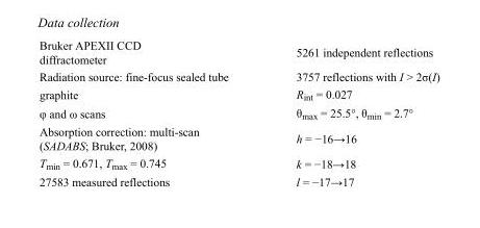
<table><tbody><tr><td>Bruker APEXII CCD diffractometer</td><td>5261 independent reflections</td></tr><tr><td>Radiation source: fine-focus sealed tube</td><td>3757 reflections with I &gt; 2σ(I)</td></tr><tr><td>graphite</td><td>R<sub>int</sub> = 0.027</td></tr><tr><td>φ and ω scans</td><td>θ<sub>max</sub> = 25.5°, θ<sub>min</sub> = 2.7°</td></tr><tr><td>Absorption correction: multi-scan (SADABS; Bruker, 2008)</td><td>h = −16→16</td></tr><tr><td>T<sub>min</sub> = 0.671, T<sub>max</sub> = 0.745</td><td>k = −18→18</td></tr><tr><td>27583 measured reflections</td><td>l = −17→17</td></tr></tbody></table>